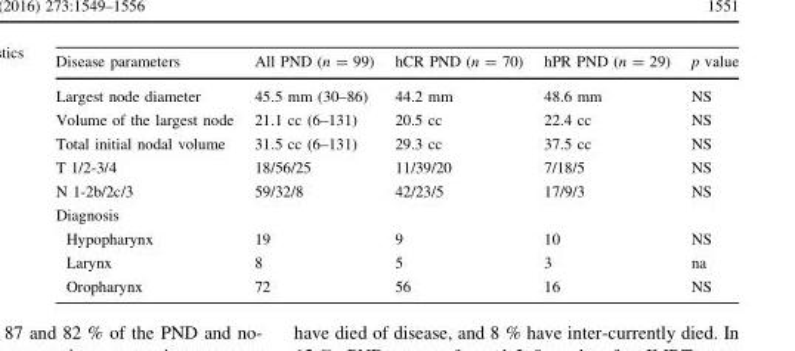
<table><thead><tr><td>Disease parameters</td><td>All PND (n = 99)</td><td>hCR PND (n = 70)</td><td>hPR PND (n = 29)</td><td>p value</td></tr></thead><tbody><tr><td>Largest node diameter</td><td>45.5 mm (30–86)</td><td>44.2 mm</td><td>48.6 mm</td><td>NS</td></tr><tr><td>Volume of the largest node</td><td>21.1 cc (6–131)</td><td>20.5 cc</td><td>22.4 cc</td><td>NS</td></tr><tr><td>Total initial nodal volume</td><td>31.5 cc (6–131)</td><td>29.3 cc</td><td>37.5 cc</td><td>NS</td></tr><tr><td>T 1/2-3/4</td><td>18/56/25</td><td>11/39/20</td><td>7/18/5</td><td>NS</td></tr><tr><td>N 1-2b/2c/3</td><td>59/32/8</td><td>42/23/5</td><td>17/9/3</td><td>NS</td></tr><tr><td colspan="5">Diagnosis</td></tr><tr><td>Hypopharynx</td><td>19</td><td>9</td><td>10</td><td>NS</td></tr><tr><td>Larynx</td><td>8</td><td>5</td><td>3</td><td>na</td></tr><tr><td>Oropharynx</td><td>72</td><td>56</td><td>16</td><td>NS</td></tr></tbody></table>